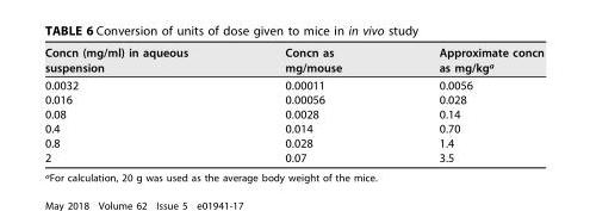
<table><thead><tr><td>Concn (mg/ml) in aqueous suspension</td><td>Concn as mg/mouse</td><td>Approximate concn as mg/kg<sup>a</sup></td></tr></thead><tbody><tr><td>0.0032</td><td>0.00011</td><td>0.0056</td></tr><tr><td>0.016</td><td>0.00056</td><td>0.028</td></tr><tr><td>0.08</td><td>0.0028</td><td>0.14</td></tr><tr><td>0.4</td><td>0.014</td><td>0.70</td></tr><tr><td>0.8</td><td>0.028</td><td>1.4</td></tr><tr><td>2</td><td>0.07</td><td>3.5</td></tr></tbody></table>